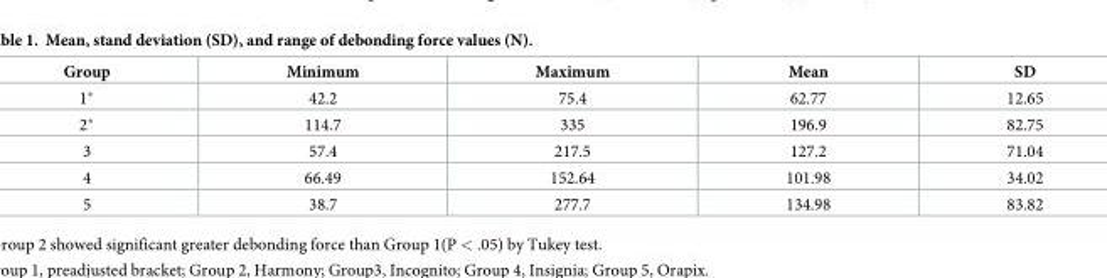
<table><thead><tr><td>Group</td><td>Minimum</td><td>Maximum</td><td>Mean</td><td>SD</td></tr></thead><tbody><tr><td>1*</td><td>42.2</td><td>75.4</td><td>62.77</td><td>12.65</td></tr><tr><td>2*</td><td>114.7</td><td>335</td><td>196.9</td><td>82.75</td></tr><tr><td>3</td><td>57.4</td><td>217.5</td><td>127.2</td><td>71.04</td></tr><tr><td>4</td><td>66.49</td><td>152.64</td><td>101.98</td><td>34.02</td></tr><tr><td>5</td><td>38.7</td><td>277.7</td><td>134.98</td><td>83.82</td></tr></tbody></table>